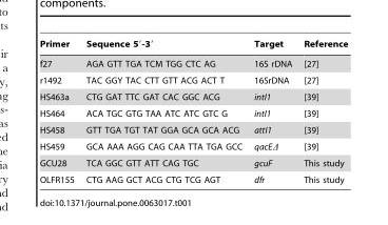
<table><thead><tr><td>Primer</td><td>Sequence 5′-3′</td><td>Target</td><td>Reference</td></tr></thead><tbody><tr><td>f27</td><td>AGA GTT TGA TCM TGG CTC AG</td><td>16S rDNA</td><td>[27]</td></tr><tr><td>r1492</td><td>TAC GGY TAC CTT GTT ACG ACT T</td><td>16SrDNA</td><td>[27]</td></tr><tr><td>HS463a</td><td>CTG GAT TTC GAT CAC GGC ACG</td><td>intI1</td><td>[39]</td></tr><tr><td>HS464</td><td>ACA TGC GTG TAA ATC ATC GTC G</td><td>intI1</td><td>[39]</td></tr><tr><td>HS458</td><td>GTT TGA TGT TAT GGA GCA GCA ACG</td><td>attI1</td><td>[39]</td></tr><tr><td>HS459</td><td>GCA AAA AGG CAG CAA TTA TGA GCC</td><td>qacEΔ</td><td>[39]</td></tr><tr><td>GCU28</td><td>TCA GGC GTT ATT CAG TGC</td><td>gcuF</td><td>This study</td></tr><tr><td>OLFR155</td><td>CTG AAG GCT ACG CTG TCG AGT</td><td>dfr</td><td>This study</td></tr></tbody></table>